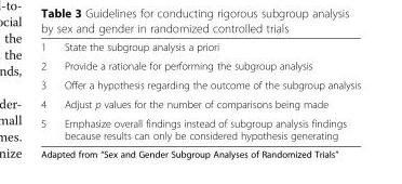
<table><tbody><tr><td>1</td><td>State the subgroup analysis a priori</td></tr><tr><td>2</td><td>Provide a rationale for performing the subgroup analysis</td></tr><tr><td>3</td><td>Offer a hypothesis regarding the outcome of the subgroup analysis</td></tr><tr><td>4</td><td>Adjust p values for the number of comparisons being made</td></tr><tr><td>5</td><td>Emphasize overall findings instead of subgroup analysis findings because results can only be considered hypothesis generating</td></tr></tbody></table>